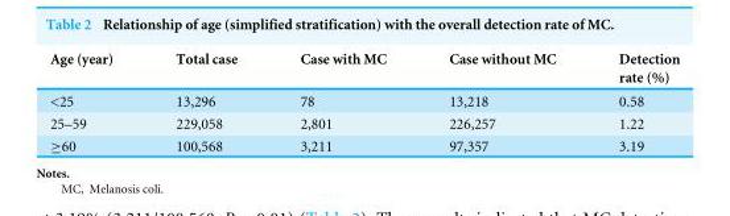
<table><thead><tr><td>Age (year)</td><td>Total case</td><td>Case with MC</td><td>Case without MC</td><td>Detection rate (%)</td></tr></thead><tbody><tr><td>&lt;25</td><td>13,296</td><td>78</td><td>13,218</td><td>0.58</td></tr><tr><td>25–59</td><td>229,058</td><td>2,801</td><td>226,257</td><td>1.22</td></tr><tr><td>≥60</td><td>100,568</td><td>3,211</td><td>97,357</td><td>3.19</td></tr></tbody></table>